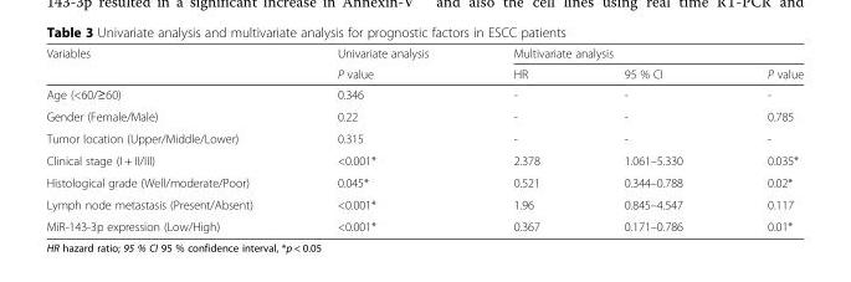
<table><thead><tr><td rowspan="2">Variables</td><td rowspan="2">Univariate analysis P value</td><td colspan="3">Multivariate analysis</td></tr><tr><td>HR</td><td>95 % CI</td><td>P value</td></tr></thead><tbody><tr><td>Age (&lt;60/≥60)</td><td>0.346</td><td>-</td><td>-</td><td>-</td></tr><tr><td>Gender (Female/Male)</td><td>0.22</td><td>-</td><td>-</td><td>0.785</td></tr><tr><td>Tumor location (Upper/Middle/Lower)</td><td>0.315</td><td>-</td><td>-</td><td>-</td></tr><tr><td>Clinical stage (I + II/III)</td><td>&lt;0.001*</td><td>2.378</td><td>1.061–5.330</td><td>0.035*</td></tr><tr><td>Histological grade (Well/moderate/Poor)</td><td>0.045*</td><td>0.521</td><td>0.344–0.788</td><td>0.02*</td></tr><tr><td>Lymph node metastasis (Present/Absent)</td><td>&lt;0.001*</td><td>1.96</td><td>0.845–4.547</td><td>0.117</td></tr><tr><td>MiR-143-3p expression (Low/High)</td><td>&lt;0.001*</td><td>0.367</td><td>0.171–0.786</td><td>0.01*</td></tr></tbody></table>